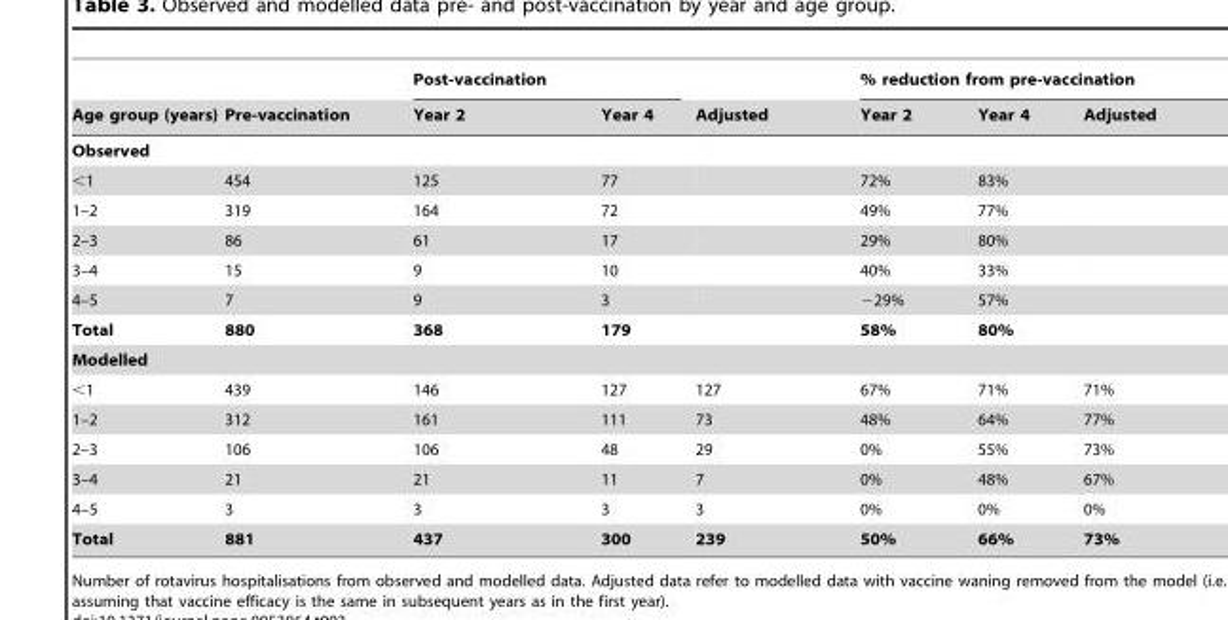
<table><thead><tr><td rowspan="2">Age group (years)</td><td rowspan="2">Pre-vaccination</td><td colspan="2">Post-vaccination</td><td rowspan="2">Adjusted</td><td colspan="3">% reduction from pre-vaccination</td></tr><tr><td>Year 2</td><td>Year 4</td><td>Year 2</td><td>Year 4</td><td>Adjusted</td></tr></thead><tbody><tr><td colspan="8">Observed</td></tr><tr><td>&lt;1</td><td>454</td><td>125</td><td>77</td><td></td><td>72%</td><td>83%</td><td></td></tr><tr><td>1–2</td><td>319</td><td>164</td><td>72</td><td></td><td>49%</td><td>77%</td><td></td></tr><tr><td>2–3</td><td>86</td><td>61</td><td>17</td><td></td><td>29%</td><td>80%</td><td></td></tr><tr><td>3–4</td><td>15</td><td>9</td><td>10</td><td></td><td>40%</td><td>33%</td><td></td></tr><tr><td>4–5</td><td>7</td><td>9</td><td>3</td><td></td><td>−29%</td><td>57%</td><td></td></tr><tr><td>Total</td><td>880</td><td>368</td><td>179</td><td></td><td>58%</td><td>80%</td><td></td></tr><tr><td colspan="8">Modelled</td></tr><tr><td>&lt;1</td><td>439</td><td>146</td><td>127</td><td>127</td><td>67%</td><td>71%</td><td>71%</td></tr><tr><td>1–2</td><td>312</td><td>161</td><td>111</td><td>73</td><td>48%</td><td>64%</td><td>77%</td></tr><tr><td>2–3</td><td>106</td><td>106</td><td>48</td><td>29</td><td>0%</td><td>55%</td><td>73%</td></tr><tr><td>3–4</td><td>21</td><td>21</td><td>11</td><td>7</td><td>0%</td><td>48%</td><td>67%</td></tr><tr><td>4–5</td><td>3</td><td>3</td><td>3</td><td>3</td><td>0%</td><td>0%</td><td>0%</td></tr><tr><td>Total</td><td>881</td><td>437</td><td>300</td><td>239</td><td>50%</td><td>66%</td><td>73%</td></tr></tbody></table>